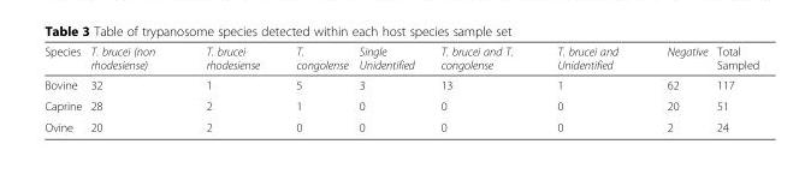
<table><thead><tr><td>Species</td><td>T. brucei (non rhodesiense)</td><td>T. brucei rhodesiense</td><td>T. congolense</td><td>Single Unidentified</td><td>T. brucei and T. congolense</td><td>T. brucei and Unidentified</td><td>Negative</td><td>Total Sampled</td></tr></thead><tbody><tr><td>Bovine</td><td>32</td><td>1</td><td>5</td><td>3</td><td>13</td><td>1</td><td>62</td><td>117</td></tr><tr><td>Caprine</td><td>28</td><td>2</td><td>1</td><td>0</td><td>0</td><td>0</td><td>20</td><td>51</td></tr><tr><td>Ovine</td><td>20</td><td>2</td><td>0</td><td>0</td><td>0</td><td>0</td><td>2</td><td>24</td></tr></tbody></table>